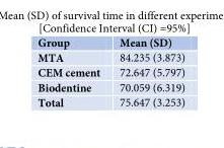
<table><thead><tr><td>Group</td><td>Mean (SD)</td></tr></thead><tbody><tr><td>MTA</td><td>84.235 (3.873)</td></tr><tr><td>CEM cement</td><td>72.647 (5.797)</td></tr><tr><td>Biodentine</td><td>70.059 (6.319)</td></tr><tr><td>Total</td><td>75.647 (3.253)</td></tr></tbody></table>